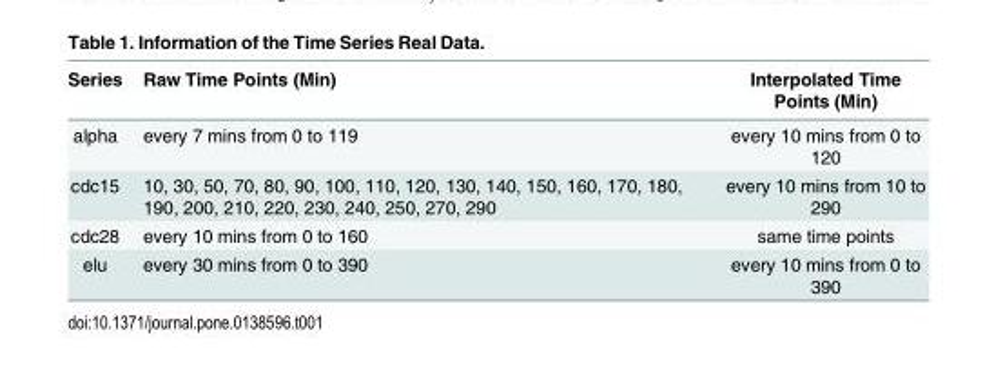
<table><thead><tr><td>Series</td><td>Raw Time Points (Min)</td><td>Interpolated Time Points (Min)</td></tr></thead><tbody><tr><td>alpha</td><td>every 7 mins from 0 to 119</td><td>every 10 mins from 0 to 120</td></tr><tr><td>cdc15</td><td>10, 30, 50, 70, 80, 90, 100, 110, 120, 130, 140, 150, 160, 170, 180, 190, 200, 210, 220, 230, 240, 250, 270, 290</td><td>every 10 mins from 10 to 290</td></tr><tr><td>cdc28</td><td>every 10 mins from 0 to 160</td><td>same time points</td></tr><tr><td>elu</td><td>every 30 mins from 0 to 390</td><td>every 10 mins from 0 to 390</td></tr></tbody></table>